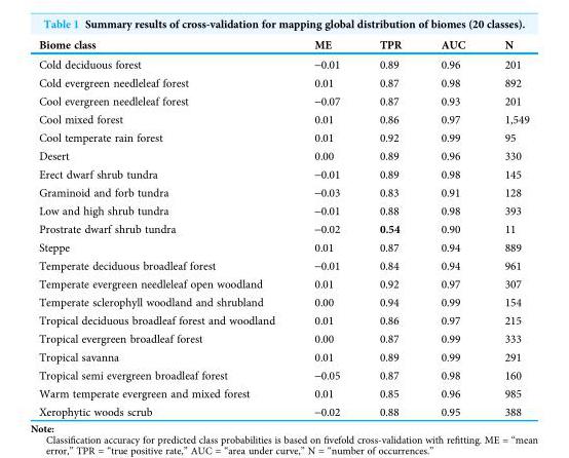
<table><thead><tr><td>Biome class</td><td>ME</td><td>TPR</td><td>AUC</td><td>N</td></tr></thead><tbody><tr><td>Cold deciduous forest</td><td>-0.01</td><td>0.89</td><td>0.96</td><td>201</td></tr><tr><td>Cold evergreen needleleaf forest</td><td>0.01</td><td>0.87</td><td>0.98</td><td>892</td></tr><tr><td>Cool evergreen needleleaf forest</td><td>-0.07</td><td>0.87</td><td>0.93</td><td>201</td></tr><tr><td>Cool mixed forest</td><td>0.01</td><td>0.86</td><td>0.97</td><td>1,549</td></tr><tr><td>Cool temperate rain forest</td><td>0.01</td><td>0.92</td><td>0.99</td><td>95</td></tr><tr><td>Desert</td><td>0.00</td><td>0.89</td><td>0.96</td><td>330</td></tr><tr><td>Erect dwarf shrub tundra</td><td>-0.01</td><td>0.89</td><td>0.98</td><td>145</td></tr><tr><td>Graminoid and forb tundra</td><td>-0.03</td><td>0.83</td><td>0.91</td><td>128</td></tr><tr><td>Low and high shrub tundra</td><td>-0.01</td><td>0.88</td><td>0.98</td><td>393</td></tr><tr><td>Prostrate dwarf shrub tundra</td><td>-0.02</td><td>0.54</td><td>0.90</td><td>11</td></tr><tr><td>Steppe</td><td>0.01</td><td>0.87</td><td>0.94</td><td>889</td></tr><tr><td>Temperate deciduous broadleaf forest</td><td>-0.01</td><td>0.84</td><td>0.94</td><td>961</td></tr><tr><td>Temperate evergreen needleleaf open woodland</td><td>0.01</td><td>0.92</td><td>0.97</td><td>307</td></tr><tr><td>Temperate sclerophyll woodland and shrubland</td><td>0.00</td><td>0.94</td><td>0.99</td><td>154</td></tr><tr><td>Tropical deciduous broadleaf forest and woodland</td><td>0.01</td><td>0.86</td><td>0.97</td><td>215</td></tr><tr><td>Tropical evergreen broadleaf forest</td><td>0.00</td><td>0.87</td><td>0.99</td><td>333</td></tr><tr><td>Tropical savanna</td><td>0.01</td><td>0.89</td><td>0.99</td><td>291</td></tr><tr><td>Tropical semi evergreen broadleaf forest</td><td>-0.05</td><td>0.87</td><td>0.98</td><td>160</td></tr><tr><td>Warm temperate evergreen and mixed forest</td><td>0.01</td><td>0.85</td><td>0.96</td><td>985</td></tr><tr><td>Xerophytic woods scrub</td><td>-0.02</td><td>0.88</td><td>0.95</td><td>388</td></tr></tbody></table>